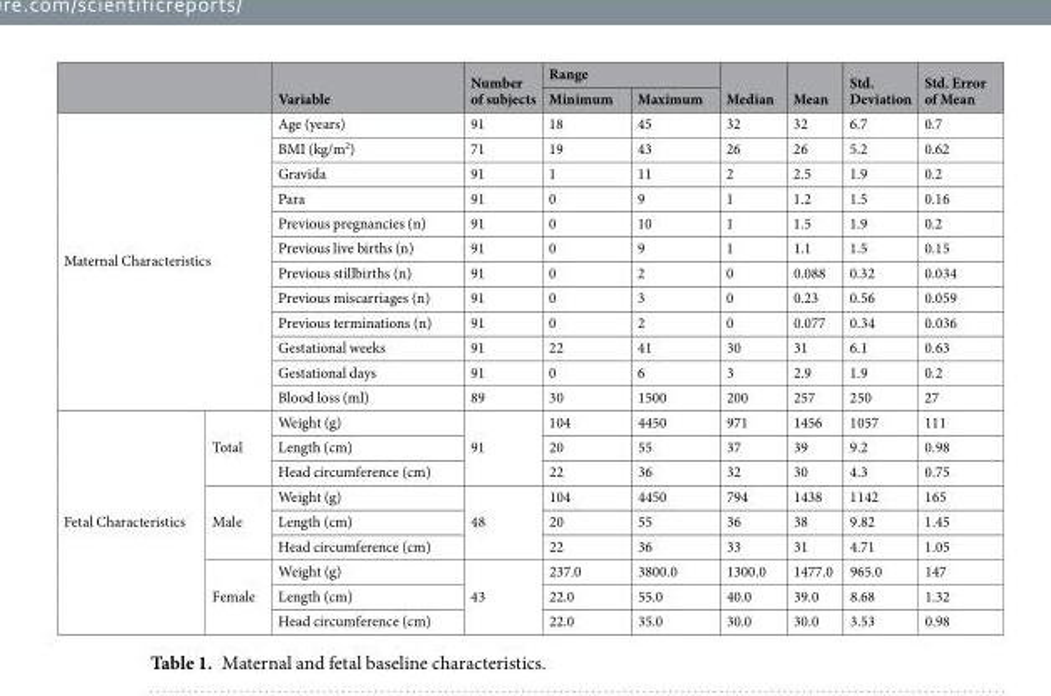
<table><thead><tr><td rowspan="2"></td><td rowspan="2"></td><td rowspan="2">Variable</td><td rowspan="2">Number of subjects</td><td colspan="2">Range</td><td rowspan="2">Median</td><td rowspan="2">Mean</td><td rowspan="2">Std. Deviation</td><td rowspan="2">Std. Error of Mean</td></tr><tr><td>Minimum</td><td>Maximum</td></tr></thead><tbody><tr><td rowspan="12" colspan="2">Maternal Characteristics</td><td>Age (years)</td><td>91</td><td>18</td><td>45</td><td>32</td><td>32</td><td>6.7</td><td>0.7</td></tr><tr><td>BMI (kg/m<sup>2</sup>)</td><td>71</td><td>19</td><td>43</td><td>26</td><td>26</td><td>5.2</td><td>0.62</td></tr><tr><td>Gravida</td><td>91</td><td>1</td><td>11</td><td>2</td><td>2.5</td><td>1.9</td><td>0.2</td></tr><tr><td>Para</td><td>91</td><td>0</td><td>9</td><td>1</td><td>1.2</td><td>1.5</td><td>0.16</td></tr><tr><td>Previous pregnancies (n)</td><td>91</td><td>0</td><td>10</td><td>1</td><td>1.5</td><td>1.9</td><td>0.2</td></tr><tr><td>Previous live births (n)</td><td>91</td><td>0</td><td>9</td><td>1</td><td>1.1</td><td>1.5</td><td>0.15</td></tr><tr><td>Previous stillbirths (n)</td><td>91</td><td>0</td><td>2</td><td>0</td><td>0.088</td><td>0.32</td><td>0.034</td></tr><tr><td>Previous miscarriages (n)</td><td>91</td><td>0</td><td>3</td><td>0</td><td>0.23</td><td>0.56</td><td>0.059</td></tr><tr><td>Previous terminations (n)</td><td>91</td><td>0</td><td>2</td><td>0</td><td>0.077</td><td>0.34</td><td>0.036</td></tr><tr><td>Gestational weeks</td><td>91</td><td>22</td><td>41</td><td>30</td><td>31</td><td>6.1</td><td>0.63</td></tr><tr><td>Gestational days</td><td>91</td><td>0</td><td>6</td><td>3</td><td>2.9</td><td>1.9</td><td>0.2</td></tr><tr><td>Blood loss (ml)</td><td>89</td><td>30</td><td>1500</td><td>200</td><td>257</td><td>250</td><td>27</td></tr><tr><td rowspan="9">Fetal Characteristics</td><td rowspan="3">Total</td><td>Weight (g)</td><td rowspan="3">91</td><td>104</td><td>4450</td><td>971</td><td>1456</td><td>1057</td><td>111</td></tr><tr><td>Length (cm)</td><td>20</td><td>55</td><td>37</td><td>39</td><td>9.2</td><td>0.98</td></tr><tr><td>Head circumference (cm)</td><td>22</td><td>36</td><td>32</td><td>30</td><td>4.3</td><td>0.75</td></tr><tr><td rowspan="3">Male</td><td>Weight (g)</td><td rowspan="3">48</td><td>104</td><td>4450</td><td>794</td><td>1438</td><td>1142</td><td>165</td></tr><tr><td>Length (cm)</td><td>20</td><td>55</td><td>36</td><td>38</td><td>9.82</td><td>1.45</td></tr><tr><td>Head circumference (cm)</td><td>22</td><td>36</td><td>33</td><td>31</td><td>4.71</td><td>1.05</td></tr><tr><td rowspan="3">Female</td><td>Weight (g)</td><td rowspan="3">43</td><td>237.0</td><td>3800.0</td><td>1300.0</td><td>1477.0</td><td>965.0</td><td>147</td></tr><tr><td>Length (cm)</td><td>22.0</td><td>55.0</td><td>40.0</td><td>39.0</td><td>8.68</td><td>1.32</td></tr><tr><td>Head circumference (cm)</td><td>22.0</td><td>35.0</td><td>30.0</td><td>30.0</td><td>3.53</td><td>0.98</td></tr></tbody></table>